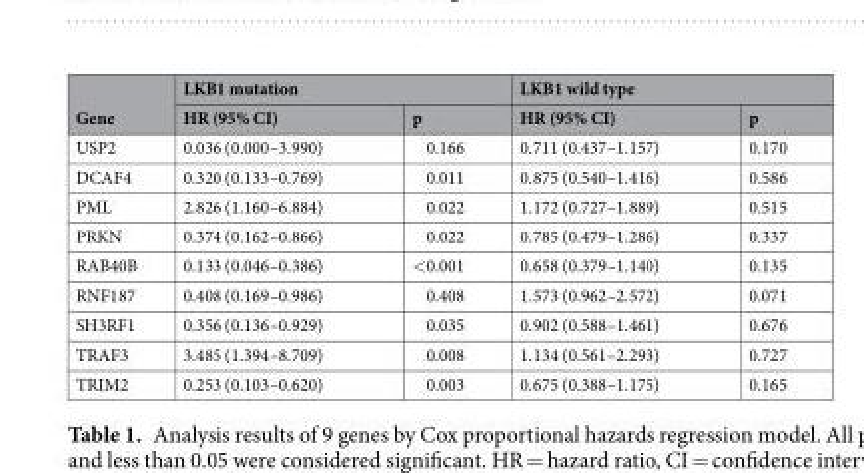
<table><thead><tr><td rowspan="2">Gene</td><td colspan="2">LKB1 mutation</td><td colspan="2">LKB1 wild type</td></tr><tr><td>HR (95% CI)</td><td>p</td><td>HR (95% CI)</td><td>p</td></tr></thead><tbody><tr><td>USP2</td><td>0.036 (0.000–3.990)</td><td>0.166</td><td>0.711 (0.437–1.157)</td><td>0.170</td></tr><tr><td>DCAF4</td><td>0.320 (0.133–0.769)</td><td>0.011</td><td>0.875 (0.540–1.416)</td><td>0.586</td></tr><tr><td>PML</td><td>2.826 (1.160–6.884)</td><td>0.022</td><td>1.172 (0.727–1.889)</td><td>0.515</td></tr><tr><td>PRKN</td><td>0.374 (0.162–0.866)</td><td>0.022</td><td>0.785 (0.479–1.286)</td><td>0.337</td></tr><tr><td>RAB40B</td><td>0.133 (0.046–0.386)</td><td>&lt;0.001</td><td>0.658 (0.379–1.140)</td><td>0.135</td></tr><tr><td>RNF187</td><td>0.408 (0.169–0.986)</td><td>0.408</td><td>1.573 (0.962–2.572)</td><td>0.071</td></tr><tr><td>SH3RF1</td><td>0.356 (0.136–0.929)</td><td>0.035</td><td>0.902 (0.588–1.461)</td><td>0.676</td></tr><tr><td>TRAF3</td><td>3.485 (1.394–8.709)</td><td>0.008</td><td>1.134 (0.561–2.293)</td><td>0.727</td></tr><tr><td>TRIM2</td><td>0.253 (0.103–0.620)</td><td>0.003</td><td>0.675 (0.388–1.175)</td><td>0.165</td></tr></tbody></table>